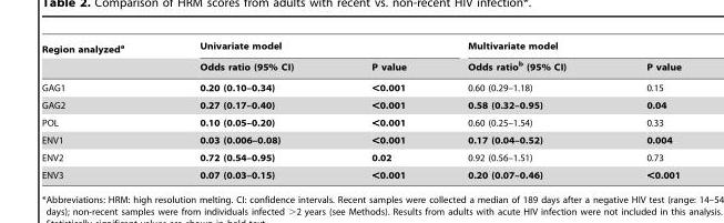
<table><thead><tr><td rowspan="2">Region analyzed<sup>a</sup></td><td colspan="2">Univariate model</td><td colspan="2">Multivariate model</td></tr><tr><td>Odds ratio (95% CI)</td><td>P value</td><td>Odds ratio<sup>b</sup> (95% CI)</td><td>P value</td></tr></thead><tbody><tr><td>GAG1</td><td>0.20 (0.10–0.34)</td><td>&lt;0.001</td><td>0.60 (0.29–1.18)</td><td>0.15</td></tr><tr><td>GAG2</td><td>0.27 (0.17–0.40)</td><td>&lt;0.001</td><td>0.58 (0.32–0.95)</td><td>0.04</td></tr><tr><td>POL</td><td>0.10 (0.05–0.20)</td><td>&lt;0.001</td><td>0.60 (0.25–1.54)</td><td>0.33</td></tr><tr><td>ENV1</td><td>0.03 (0.006–0.08)</td><td>&lt;0.001</td><td>0.17 (0.04–0.52)</td><td>0.004</td></tr><tr><td>ENV2</td><td>0.72 (0.54–0.95)</td><td>0.02</td><td>0.92 (0.56–1.51)</td><td>0.73</td></tr><tr><td>ENV3</td><td>0.07 (0.03–0.15)</td><td>&lt;0.001</td><td>0.20 (0.07–0.46)</td><td>&lt;0.001</td></tr></tbody></table>